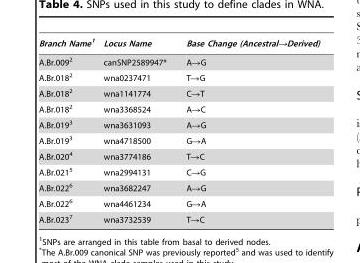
<table><thead><tr><td>Branch Name1</td><td>Locus Name</td><td>Base Change (Ancestral→Derived)</td></tr></thead><tbody><tr><td>A.Br.009<sup>2</sup></td><td>canSNP2589947*</td><td>A→G</td></tr><tr><td>A.Br.018<sup>2</sup></td><td>wna0237471</td><td>T→G</td></tr><tr><td>A.Br.018<sup>2</sup></td><td>wna1141774</td><td>C→T</td></tr><tr><td>A.Br.018<sup>2</sup></td><td>wna3368524</td><td>A→C</td></tr><tr><td>A.Br.019<sup>3</sup></td><td>wna3631093</td><td>A→G</td></tr><tr><td>A.Br.019<sup>3</sup></td><td>wna4718500</td><td>G→A</td></tr><tr><td>A.Br.020<sup>4</sup></td><td>wna3774186</td><td>T→C</td></tr><tr><td>A.Br.021<sup>5</sup></td><td>wna2994131</td><td>C→G</td></tr><tr><td>A.Br.022<sup>6</sup></td><td>wna3682247</td><td>A→G</td></tr><tr><td>A.Br.022<sup>6</sup></td><td>wna4461234</td><td>G→A</td></tr><tr><td>A.Br.023<sup>7</sup></td><td>wna3732539</td><td>T→C</td></tr></tbody></table>